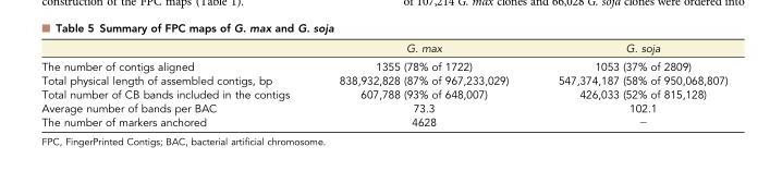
<table><thead><tr><td></td><td>G. max</td><td>G. soja</td></tr></thead><tbody><tr><td>The number of contigs aligned</td><td>1355 (78% of 1722)</td><td>1053 (37% of 2809)</td></tr><tr><td>Total physical length of assembled contigs, bp</td><td>838,932,828 (87% of 967,233,029)</td><td>547,374,187 (58% of 950,068,807)</td></tr><tr><td>Total number of CB bands included in the contigs</td><td>607,788 (93% of 648,007)</td><td>426,033 (52% of 815,128)</td></tr><tr><td>Average number of bands per BAC</td><td>73.3</td><td>102.1</td></tr><tr><td>The number of markers anchored</td><td>4628</td><td>−</td></tr></tbody></table>